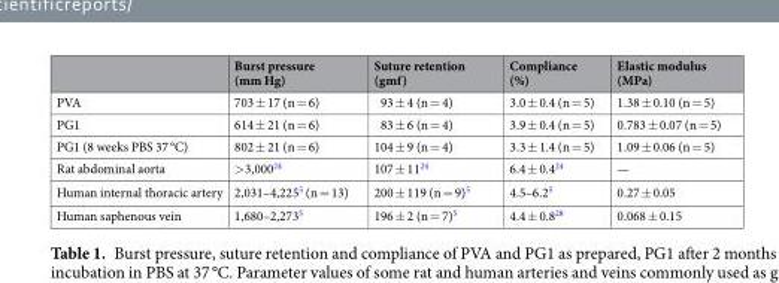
<table><thead><tr><td></td><td>Burst pressure (mm Hg)</td><td>Suture retention (gmf)</td><td>Compliance (%)</td><td>Elastic modulus (MPa)</td></tr></thead><tbody><tr><td>PVA</td><td>703 ± 17 (n = 6)</td><td>93 ± 4 (n = 4)</td><td>3.0 ± 0.4 (n = 5)</td><td>1.38 ± 0.10 (n = 5)</td></tr><tr><td>PG1</td><td>614 ± 21 (n = 6)</td><td>83 ± 6 (n = 4)</td><td>3.9 ± 0.4 (n = 5)</td><td>0.783 ± 0.07 (n = 5)</td></tr><tr><td>PG1 (8 weeks PBS 37 °C)</td><td>802 ± 21 (n = 6)</td><td>104 ± 9 (n = 4)</td><td>3.3 ± 1.4 (n = 5)</td><td>1.09 ± 0.06 (n = 5)</td></tr><tr><td>Rat abdominal aorta</td><td>&gt;3,000<sup>24</sup></td><td>107 ± 11<sup>24</sup></td><td>6.4 ± 0.4<sup>24</sup></td><td>—</td></tr><tr><td>Human internal thoracic artery</td><td>2,031–4,225<sup>5</sup> (n = 13)</td><td>200 ± 119 (n = 9)<sup>5</sup></td><td>4.5–6.2<sup>5</sup></td><td>0.27 ± 0.05</td></tr><tr><td>Human saphenous vein</td><td>1,680–2,273<sup>5</sup></td><td>196 ± 2 (n = 7)<sup>5</sup></td><td>4.4 ± 0.8<sup>28</sup></td><td>0.068 ± 0.15</td></tr></tbody></table>